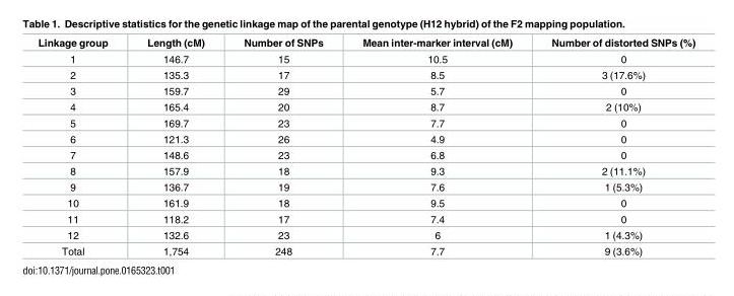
<table><thead><tr><td>Linkage group</td><td>Length (cM)</td><td>Number of SNPs</td><td>Mean inter-marker interval (cM)</td><td>Number of distorted SNPs (%)</td></tr></thead><tbody><tr><td>1</td><td>146.7</td><td>15</td><td>10.5</td><td>0</td></tr><tr><td>2</td><td>135.3</td><td>17</td><td>8.5</td><td>3 (17.6%)</td></tr><tr><td>3</td><td>159.7</td><td>29</td><td>5.7</td><td>0</td></tr><tr><td>4</td><td>165.4</td><td>20</td><td>8.7</td><td>2 (10%)</td></tr><tr><td>5</td><td>169.7</td><td>23</td><td>7.7</td><td>0</td></tr><tr><td>6</td><td>121.3</td><td>26</td><td>4.9</td><td>0</td></tr><tr><td>7</td><td>148.6</td><td>23</td><td>6.8</td><td>0</td></tr><tr><td>8</td><td>157.9</td><td>18</td><td>9.3</td><td>2 (11.1%)</td></tr><tr><td>9</td><td>136.7</td><td>19</td><td>7.6</td><td>1 (5.3%)</td></tr><tr><td>10</td><td>161.9</td><td>18</td><td>9.5</td><td>0</td></tr><tr><td>11</td><td>118.2</td><td>17</td><td>7.4</td><td>0</td></tr><tr><td>12</td><td>132.6</td><td>23</td><td>6</td><td>1 (4.3%)</td></tr><tr><td>Total</td><td>1,754</td><td>248</td><td>7.7</td><td>9 (3.6%)</td></tr></tbody></table>